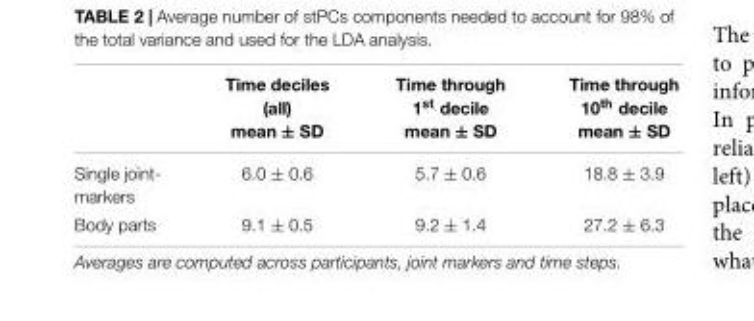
<table><thead><tr><td></td><td>Time deciles (all) mean ± SD</td><td>Time through 1<sup>st</sup> decile mean ± SD</td><td>Time through 10<sup>th</sup> decile mean ± SD</td></tr></thead><tbody><tr><td>Single joint- markers</td><td>6.0 ± 0.6</td><td>5.7 ± 0.6</td><td>18.8 ± 3.9</td></tr><tr><td>Body parts</td><td>9.1 ± 0.5</td><td>9.2 ± 1.4</td><td>27.2 ± 6.3</td></tr></tbody></table>